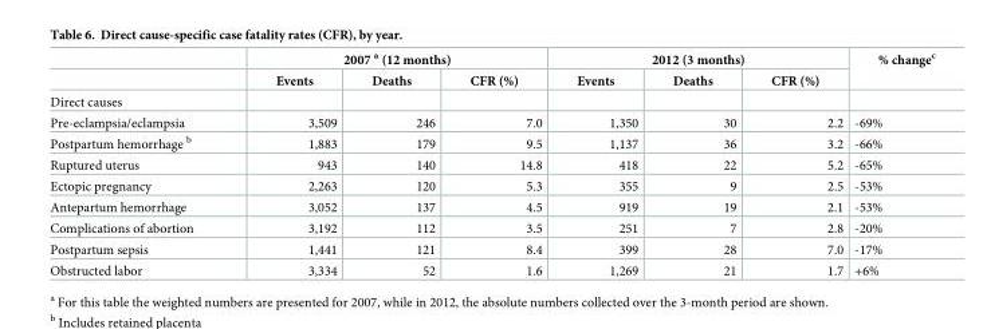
<table><thead><tr><td rowspan="2"></td><td colspan="3">2007 <sup>a</sup> (12 months)</td><td colspan="3">2012 (3 months)</td><td rowspan="2">% change<sup>c</sup></td></tr><tr><td>Events</td><td>Deaths</td><td>CFR (%)</td><td>Events</td><td>Deaths</td><td>CFR (%)</td></tr></thead><tbody><tr><td colspan="8">Direct causes</td></tr><tr><td>Pre-eclampsia/eclampsia</td><td>3,509</td><td>246</td><td>7.0</td><td>1,350</td><td>30</td><td>2.2</td><td>-69%</td></tr><tr><td>Postpartum hemorrhage <sup>b</sup></td><td>1,883</td><td>179</td><td>9.5</td><td>1,137</td><td>36</td><td>3.2</td><td>-66%</td></tr><tr><td>Ruptured uterus</td><td>943</td><td>140</td><td>14.8</td><td>418</td><td>22</td><td>5.2</td><td>-65%</td></tr><tr><td>Ectopic pregnancy</td><td>2,263</td><td>120</td><td>5.3</td><td>355</td><td>9</td><td>2.5</td><td>-53%</td></tr><tr><td>Antepartum hemorrhage</td><td>3,052</td><td>137</td><td>4.5</td><td>919</td><td>19</td><td>2.1</td><td>-53%</td></tr><tr><td>Complications of abortion</td><td>3,192</td><td>112</td><td>3.5</td><td>251</td><td>7</td><td>2.8</td><td>-20%</td></tr><tr><td>Postpartum sepsis</td><td>1,441</td><td>121</td><td>8.4</td><td>399</td><td>28</td><td>7.0</td><td>-17%</td></tr><tr><td>Obstructed labor</td><td>3,334</td><td>52</td><td>1.6</td><td>1,269</td><td>21</td><td>1.7</td><td>+6%</td></tr></tbody></table>